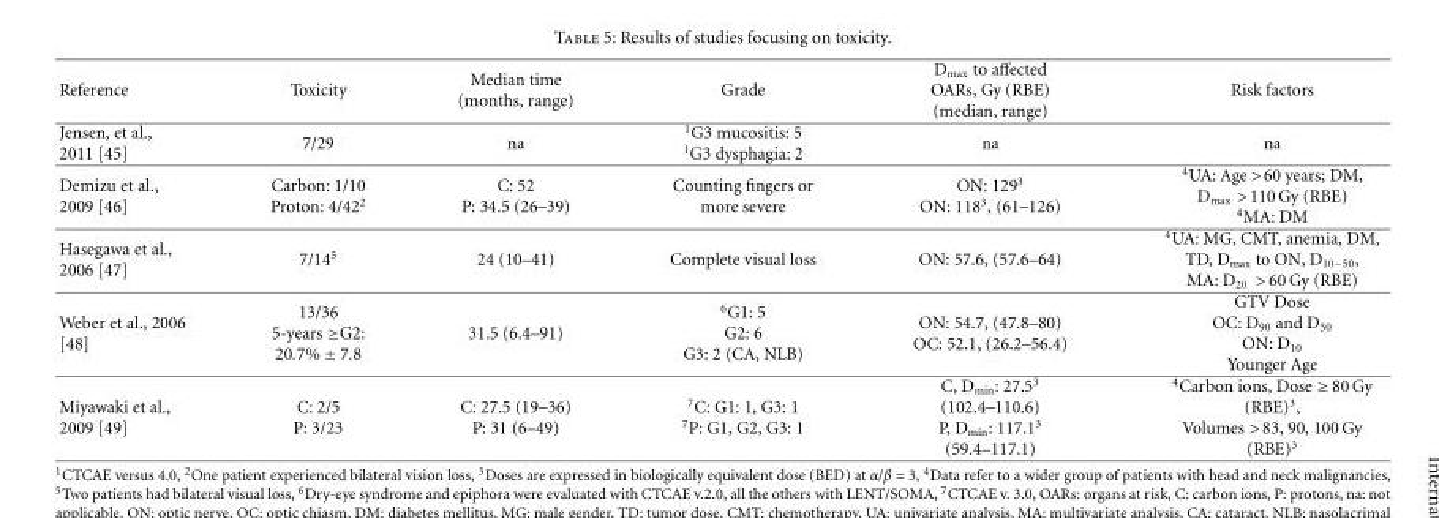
<table><thead><tr><td>Reference</td><td>Toxicity</td><td>Median time (months, range)</td><td>Grade</td><td>D<sub>max</sub> to affected OARs, Gy (RBE) (median, range)</td><td>Risk factors</td></tr></thead><tbody><tr><td>Jensen, et al., 2011 [45]</td><td>7/29</td><td>na</td><td><sup>1</sup>G3 mucositis: 5 <sup>1</sup>G3 dysphagia: 2</td><td>na</td><td>na</td></tr><tr><td>Demizu et al., 2009 [46]</td><td>Carbon: 1/10 Proton: 4/42<sup>2</sup></td><td>C: 52 P: 34.5 (26–39)</td><td>Counting fingers or more severe</td><td>ON: 129<sup>3</sup> ON: 118<sup>3</sup>, (61–126)</td><td><sup>4</sup>UA: Age &gt; 60 years; DM, D<sub>max</sub> &gt;110 Gy (RBE) <sup>4</sup>MA: DM</td></tr><tr><td>Hasegawa et al., 2006 [47]</td><td>7/14<sup>5</sup></td><td>24 (10–41)</td><td>Complete visual loss</td><td>ON: 57.6, (57.6–64)</td><td><sup>4</sup>UA: MG, CMT, anemia, DM, TD, D<sub>max</sub> to ON, D<sub>10−50</sub>, MA: D<sub>20</sub> &gt; 60 Gy (RBE)</td></tr><tr><td>Weber et al., 2006 [48]</td><td>13/36 5-years ≥G2: 20.7% ± 7.8</td><td>31.5 (6.4–91)</td><td><sup>6</sup>G1: 5 G2: 6 G3: 2 (CA, NLB)</td><td>ON: 54.7, (47.8–80) OC: 52.1, (26.2–56.4)</td><td>GTV Dose OC: D<sub>90</sub> and D<sub>50</sub> ON: D<sub>10</sub> Younger Age</td></tr><tr><td>Miyawaki et al., 2009 [49]</td><td>C: 2/5 P: 3/23</td><td>C: 27.5 (19–36) P: 31 (6–49)</td><td><sup>7</sup>C: G1: 1, G3: 1 <sup>7</sup>P: G1, G2, G3: 1</td><td>C, D<sub>min</sub>: 27.5<sup>3</sup> (102.4–110.6) P, D<sub>min</sub>: 117.1<sup>3</sup> (59.4–117.1)</td><td><sup>4</sup>Carbon ions, Dose ≥80 Gy (RBE)<sup>3</sup>, Volumes &gt; 83, 90, 100 Gy (RBE)<sup>3</sup></td></tr></tbody></table>